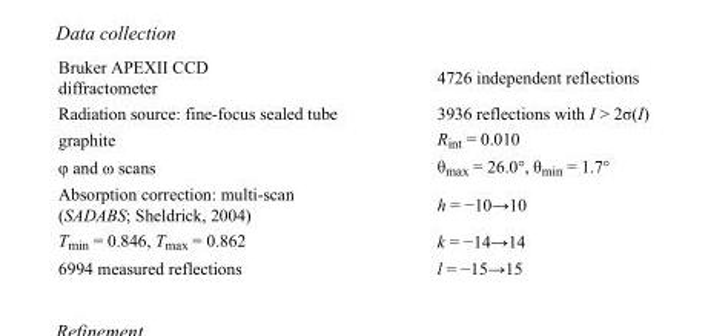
<table><tbody><tr><td>Bruker APEXII CCD diffractometer</td><td>4726 independent reflections</td></tr><tr><td>Radiation source: fine-focus sealed tube</td><td>3936 reflections with I &gt; 2σ(I)</td></tr><tr><td>graphite</td><td>R<sub>int</sub> = 0.010</td></tr><tr><td>φ and ω scans</td><td>θ<sub>max</sub> = 26.0°, θ<sub>min</sub> = 1.7°</td></tr><tr><td>Absorption correction: multi-scan (SADABS; Sheldrick, 2004)</td><td>h = −10→10</td></tr><tr><td>T<sub>min</sub> = 0.846, T<sub>max</sub> = 0.862</td><td>k = −14→14</td></tr><tr><td>6994 measured reflections</td><td>l = −15→15</td></tr></tbody></table>